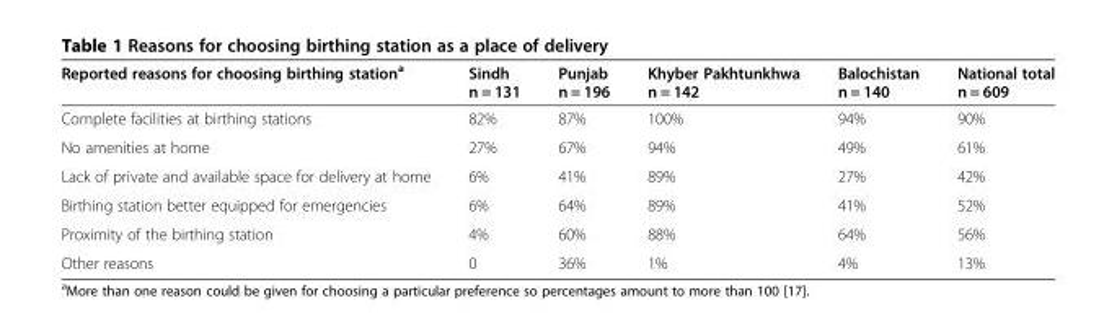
<table><thead><tr><td>Reported reasons for choosing birthing station<sup>a</sup></td><td>Sindh n = 131</td><td>Punjab n = 196</td><td>Khyber Pakhtunkhwa n = 142</td><td>Balochistan n = 140</td><td>National total n = 609</td></tr></thead><tbody><tr><td>Complete facilities at birthing stations</td><td>82%</td><td>87%</td><td>100%</td><td>94%</td><td>90%</td></tr><tr><td>No amenities at home</td><td>27%</td><td>67%</td><td>94%</td><td>49%</td><td>61%</td></tr><tr><td>Lack of private and available space for delivery at home</td><td>6%</td><td>41%</td><td>89%</td><td>27%</td><td>42%</td></tr><tr><td>Birthing station better equipped for emergencies</td><td>6%</td><td>64%</td><td>89%</td><td>41%</td><td>52%</td></tr><tr><td>Proximity of the birthing station</td><td>4%</td><td>60%</td><td>88%</td><td>64%</td><td>56%</td></tr><tr><td>Other reasons</td><td>0</td><td>36%</td><td>1%</td><td>4%</td><td>13%</td></tr></tbody></table>